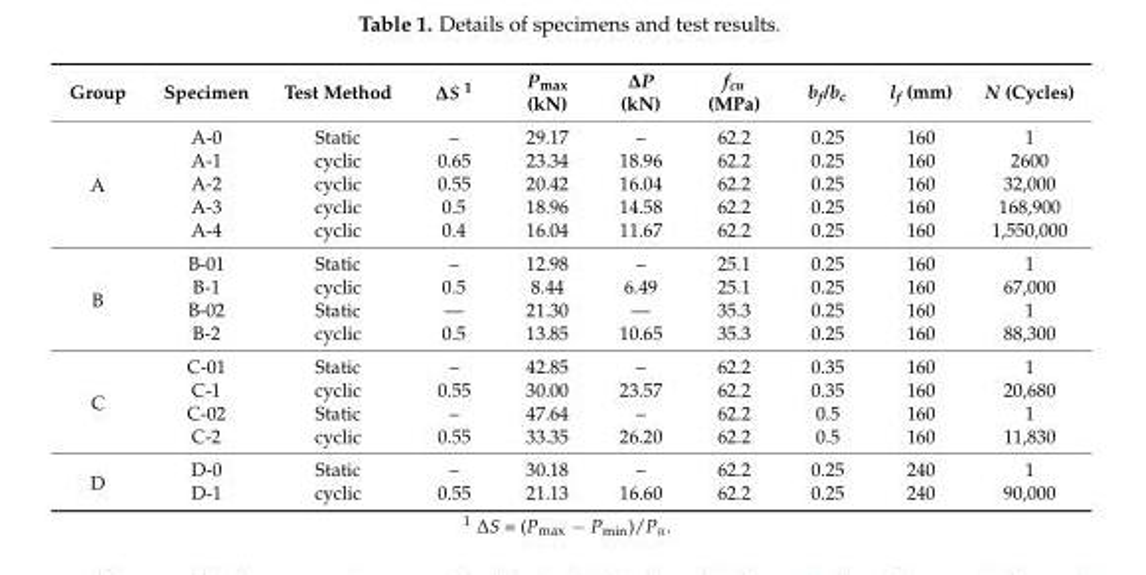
<table><thead><tr><td>Group</td><td>Specimen</td><td>Test Method</td><td>∆S <sup>1</sup></td><td>P<sub>max</sub> (kN)</td><td>∆P (kN)</td><td>f<sub>cu</sub> (MPa)</td><td>b<sub>f</sub>/b<sub>c</sub></td><td>l<sub>f</sub> (mm)</td><td>N (Cycles)</td></tr></thead><tbody><tr><td rowspan="5">A</td><td>A-0</td><td>Static</td><td>–</td><td>29.17</td><td>–</td><td>62.2</td><td>0.25</td><td>160</td><td>1</td></tr><tr><td>A-1</td><td>cyclic</td><td>0.65</td><td>23.34</td><td>18.96</td><td>62.2</td><td>0.25</td><td>160</td><td>2600</td></tr><tr><td>A-2</td><td>cyclic</td><td>0.55</td><td>20.42</td><td>16.04</td><td>62.2</td><td>0.25</td><td>160</td><td>32,000</td></tr><tr><td>A-3</td><td>cyclic</td><td>0.5</td><td>18.96</td><td>14.58</td><td>62.2</td><td>0.25</td><td>160</td><td>168,900</td></tr><tr><td>A-4</td><td>cyclic</td><td>0.4</td><td>16.04</td><td>11.67</td><td>62.2</td><td>0.25</td><td>160</td><td>1,550,000</td></tr><tr><td rowspan="4">B</td><td>B-01</td><td>Static</td><td>–</td><td>12.98</td><td>–</td><td>25.1</td><td>0.25</td><td>160</td><td>1</td></tr><tr><td>B-1</td><td>cyclic</td><td>0.5</td><td>8.44</td><td>6.49</td><td>25.1</td><td>0.25</td><td>160</td><td>67,000</td></tr><tr><td>B-02</td><td>Static</td><td>—</td><td>21.30</td><td>—</td><td>35.3</td><td>0.25</td><td>160</td><td>1</td></tr><tr><td>B-2</td><td>cyclic</td><td>0.5</td><td>13.85</td><td>10.65</td><td>35.3</td><td>0.25</td><td>160</td><td>88,300</td></tr><tr><td rowspan="4">C</td><td>C-01</td><td>Static</td><td>–</td><td>42.85</td><td>–</td><td>62.2</td><td>0.35</td><td>160</td><td>1</td></tr><tr><td>C-1</td><td>cyclic</td><td>0.55</td><td>30.00</td><td>23.57</td><td>62.2</td><td>0.35</td><td>160</td><td>20,680</td></tr><tr><td>C-02</td><td>Static</td><td>–</td><td>47.64</td><td>–</td><td>62.2</td><td>0.5</td><td>160</td><td>1</td></tr><tr><td>C-2</td><td>cyclic</td><td>0.55</td><td>33.35</td><td>26.20</td><td>62.2</td><td>0.5</td><td>160</td><td>11,830</td></tr><tr><td rowspan="2">D</td><td>D-0</td><td>Static</td><td>–</td><td>30.18</td><td>–</td><td>62.2</td><td>0.25</td><td>240</td><td>1</td></tr><tr><td>D-1</td><td>cyclic</td><td>0.55</td><td>21.13</td><td>16.60</td><td>62.2</td><td>0.25</td><td>240</td><td>90,000</td></tr></tbody></table>